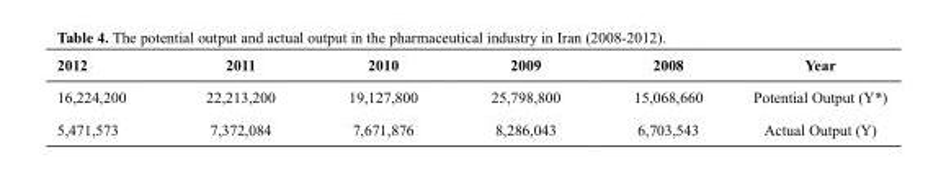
<table><thead><tr><td>2012</td><td>2011</td><td>2010</td><td>2009</td><td>2008</td><td>Year</td></tr></thead><tbody><tr><td>16,224,200</td><td>22,213,200</td><td>19,127,800</td><td>25,798,800</td><td>15,068,660</td><td>Potential Output (Y*)</td></tr><tr><td>5,471,573</td><td>7,372,084</td><td>7,671,876</td><td>8,286,043</td><td>6,703,543</td><td>Actual Output (Y)</td></tr></tbody></table>